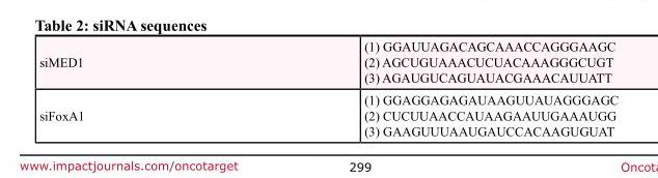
<table><tbody><tr><td>siMED1</td><td>(1) GGAUUAGACAGCAAACCAGGGAAGC (2) AGCUGUAAACUCUACAAAGGGCUGT (3) AGAUGUCAGUAUACGAAACAUUATT</td></tr><tr><td>siFoxA1</td><td>(1) GGAGGAGAGAUAAGUUAUAGGGAGC (2) CUCUUAACCAUAAGAAUUGAAAUGG (3) GAAGUUUAAUGAUCCACAAGUGUAT</td></tr></tbody></table>